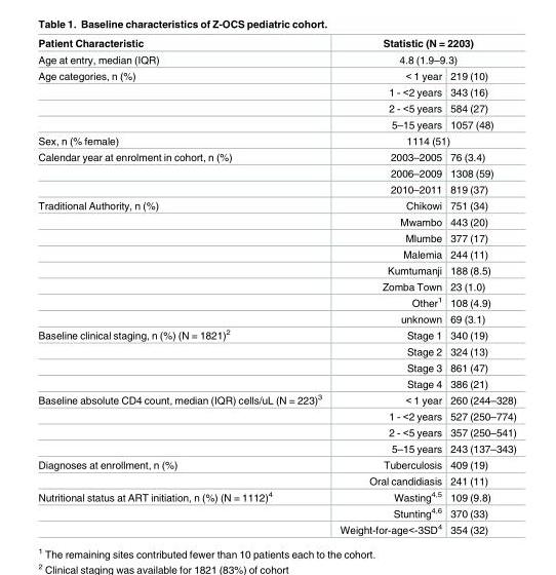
<table><thead><tr><td rowspan="3">Patient Characteristic Age at entry, median (IQR) Age categories, n (%)</td><td rowspan="2" colspan="2">Statistic (N = 2203) 4.8 (1.9–9.3)</td></tr><tr></tr><tr><td>&lt; 1 year</td><td>219 (10)</td></tr></thead><tbody><tr><td></td><td>1 - &lt;2 years</td><td>343 (16)</td></tr><tr><td></td><td>2 - &lt;5 years</td><td>584 (27)</td></tr><tr><td></td><td>5–15 years</td><td>1057 (48)</td></tr><tr><td>Sex, n (% female)</td><td colspan="2">1114 (51)</td></tr><tr><td rowspan="3">Calendar year at enrolment in cohort, n (%)</td><td>2003–2005</td><td>76 (3.4)</td></tr><tr><td>2006–2009</td><td>1308 (59)</td></tr><tr><td>2010–2011</td><td>819 (37)</td></tr><tr><td rowspan="8">Traditional Authority, n (%)</td><td>Chikowi</td><td>751 (34)</td></tr><tr><td>Mwambo</td><td>443 (20)</td></tr><tr><td>Mlumbe</td><td>377 (17)</td></tr><tr><td>Malemia</td><td>244 (11)</td></tr><tr><td>Kumtumanji</td><td>188 (8.5)</td></tr><tr><td>Zomba Town</td><td>23 (1.0)</td></tr><tr><td>Other<sup>1</sup></td><td>108 (4.9)</td></tr><tr><td>unknown</td><td>69 (3.1)</td></tr><tr><td rowspan="4">Baseline clinical staging, n (%) (N = 1821)<sup>2</sup></td><td>Stage 1</td><td>340 (19)</td></tr><tr><td>Stage 2</td><td>324 (13)</td></tr><tr><td>Stage 3</td><td>861 (47)</td></tr><tr><td>Stage 4</td><td>386 (21)</td></tr><tr><td rowspan="4">Baseline absolute CD4 count, median (IQR) cells/uL (N = 223)<sup>3</sup></td><td>&lt; 1 year</td><td>260 (244–328)</td></tr><tr><td>1 - &lt;2 years</td><td>527 (250–774)</td></tr><tr><td>2 - &lt;5 years</td><td>357 (250–541)</td></tr><tr><td>5–15 years</td><td>243 (137–343)</td></tr><tr><td rowspan="2">Diagnoses at enrollment, n (%)</td><td>Tuberculosis</td><td>409 (19)</td></tr><tr><td>Oral candidiasis</td><td>241 (11)</td></tr><tr><td rowspan="3">Nutritional status at ART initiation, n (%) (N = 1112)<sup>4</sup></td><td>Wasting<sup>4,5</sup></td><td>109 (9.8)</td></tr><tr><td>Stunting<sup>4,6</sup></td><td>370 (33)</td></tr><tr><td>Weight-for-age&lt;-3SD<sup>4</sup></td><td>354 (32)</td></tr></tbody></table>